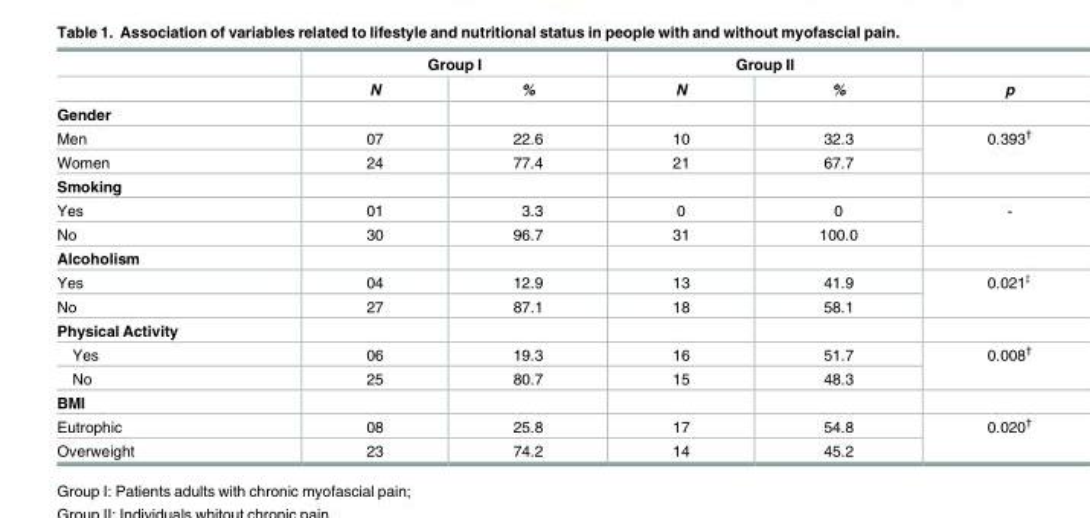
<table><thead><tr><td rowspan="2"></td><td colspan="2">Group I</td><td colspan="2">Group II</td><td rowspan="2">p</td></tr><tr><td>N</td><td>%</td><td>N</td><td>%</td></tr></thead><tbody><tr><td colspan="6">Gender</td></tr><tr><td>Men</td><td>07</td><td>22.6</td><td>10</td><td>32.3</td><td rowspan="2">0.393<sup>†</sup></td></tr><tr><td>Women</td><td>24</td><td>77.4</td><td>21</td><td>67.7</td></tr><tr><td colspan="6">Smoking</td></tr><tr><td>Yes</td><td>01</td><td>3.3</td><td>0</td><td>0</td><td rowspan="2">-</td></tr><tr><td>No</td><td>30</td><td>96.7</td><td>31</td><td>100.0</td></tr><tr><td colspan="6">Alcoholism</td></tr><tr><td>Yes</td><td>04</td><td>12.9</td><td>13</td><td>41.9</td><td rowspan="2">0.021<sup>♯</sup></td></tr><tr><td>No</td><td>27</td><td>87.1</td><td>18</td><td>58.1</td></tr><tr><td colspan="6">Physical Activity</td></tr><tr><td>Yes</td><td>06</td><td>19.3</td><td>16</td><td>51.7</td><td rowspan="2">0.008<sup>†</sup></td></tr><tr><td>No</td><td>25</td><td>80.7</td><td>15</td><td>48.3</td></tr><tr><td colspan="6">BMI</td></tr><tr><td>Eutrophic</td><td>08</td><td>25.8</td><td>17</td><td>54.8</td><td rowspan="2">0.020<sup>†</sup></td></tr><tr><td>Overweight</td><td>23</td><td>74.2</td><td>14</td><td>45.2</td></tr></tbody></table>